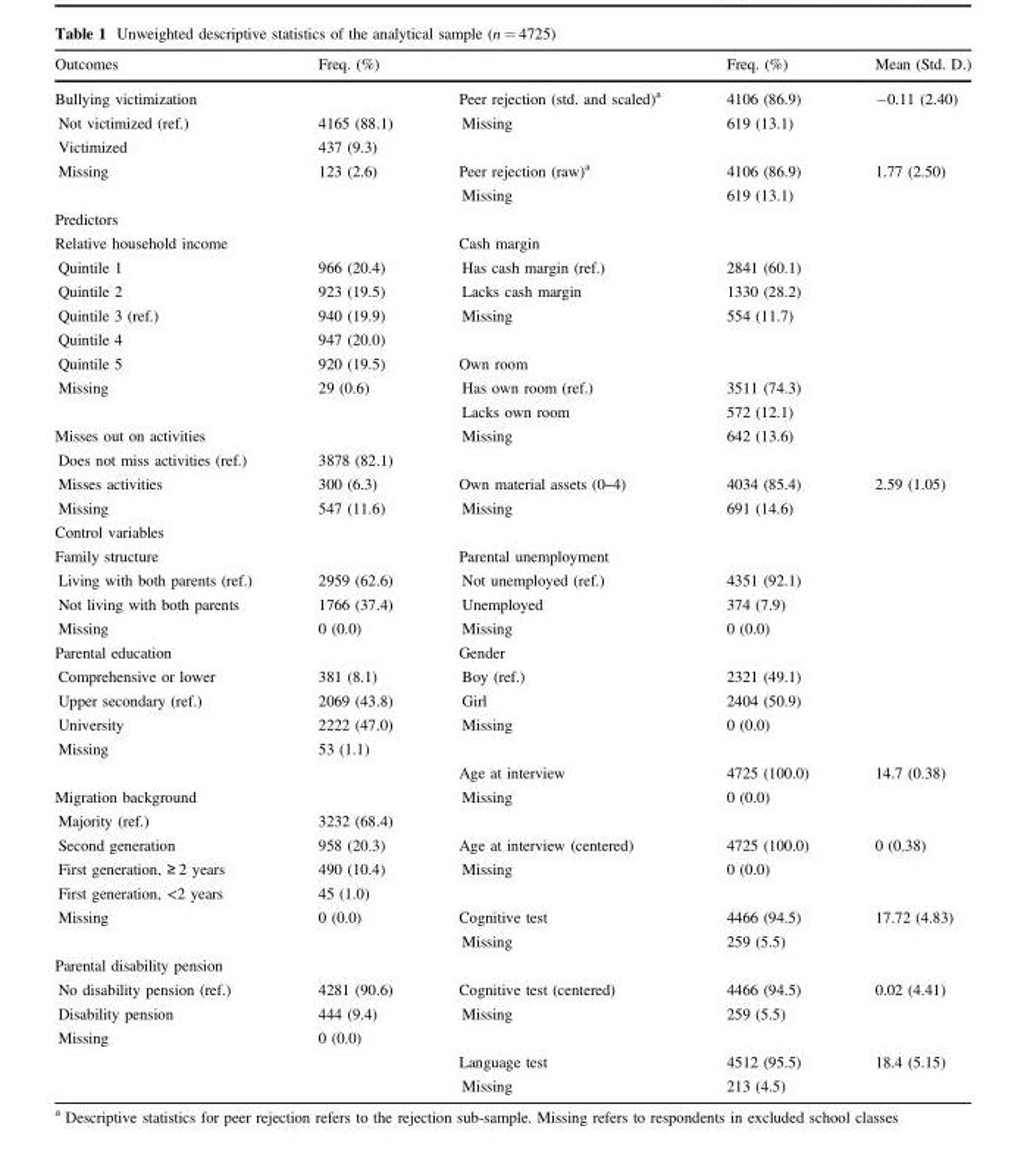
<table><thead><tr><td>Outcomes</td><td>Freq. (%)</td><td></td><td>Freq. (%)</td><td>Mean (Std. D.)</td></tr></thead><tbody><tr><td>Bullying victimization</td><td></td><td>Peer rejection (std. and scaled)<sup>a</sup></td><td>4106 (86.9)</td><td>−0.11 (2.40)</td></tr><tr><td>Not victimized (ref.)</td><td>4165 (88.1)</td><td>Missing</td><td>619 (13.1)</td><td></td></tr><tr><td>Victimized</td><td>437 (9.3)</td><td></td><td></td><td></td></tr><tr><td rowspan="2">Missing</td><td>123 (2.6)</td><td>Peer rejection (raw)<sup>a</sup></td><td>4106 (86.9)</td><td>1.77 (2.50)</td></tr><tr><td></td><td>Missing</td><td>619 (13.1)</td><td></td></tr><tr><td colspan="5">Predictors</td></tr><tr><td>Relative household income</td><td></td><td>Cash margin</td><td></td><td></td></tr><tr><td>Quintile 1</td><td>966 (20.4)</td><td>Has cash margin (ref.)</td><td>2841 (60.1)</td><td></td></tr><tr><td>Quintile 2</td><td>923 (19.5)</td><td>Lacks cash margin</td><td>1330 (28.2)</td><td></td></tr><tr><td>Quintile 3 (ref.)</td><td>940 (19.9)</td><td>Missing</td><td>554 (11.7)</td><td></td></tr><tr><td>Quintile 4</td><td>947 (20.0)</td><td></td><td></td><td></td></tr><tr><td>Quintile 5</td><td>920 (19.5)</td><td>Own room</td><td></td><td></td></tr><tr><td rowspan="2">Missing</td><td>29 (0.6)</td><td>Has own room (ref.)</td><td>3511 (74.3)</td><td></td></tr><tr><td></td><td>Lacks own room</td><td>572 (12.1)</td><td></td></tr><tr><td>Misses out on activities</td><td></td><td>Missing</td><td>642 (13.6)</td><td></td></tr><tr><td>Does not miss activities (ref.)</td><td>3878 (82.1)</td><td></td><td></td><td></td></tr><tr><td>Misses activities</td><td>300 (6.3)</td><td>Own material assets (0–4)</td><td>4034 (85.4)</td><td>2.59 (1.05)</td></tr><tr><td>Missing</td><td>547 (11.6)</td><td>Missing</td><td>691 (14.6)</td><td></td></tr><tr><td colspan="5">Control variables</td></tr><tr><td>Family structure</td><td></td><td>Parental unemployment</td><td></td><td></td></tr><tr><td>Living with both parents (ref.)</td><td>2959 (62.6)</td><td>Not unemployed (ref.)</td><td>4351 (92.1)</td><td></td></tr><tr><td>Not living with both parents</td><td>1766 (37.4)</td><td>Unemployed</td><td>374 (7.9)</td><td></td></tr><tr><td>Missing</td><td>0 (0.0)</td><td>Missing</td><td>0 (0.0)</td><td></td></tr><tr><td>Parental education</td><td></td><td>Gender</td><td></td><td></td></tr><tr><td>Comprehensive or lower</td><td>381 (8.1)</td><td>Boy (ref.)</td><td>2321 (49.1)</td><td></td></tr><tr><td>Upper secondary (ref.)</td><td>2069 (43.8)</td><td>Girl</td><td>2404 (50.9)</td><td></td></tr><tr><td>University</td><td>2222 (47.0)</td><td>Missing</td><td>0 (0.0)</td><td></td></tr><tr><td rowspan="2">Missing</td><td>53 (1.1)</td><td></td><td></td><td></td></tr><tr><td></td><td>Age at interview</td><td>4725 (100.0)</td><td>14.7 (0.38)</td></tr><tr><td>Migration background</td><td></td><td>Missing</td><td>0 (0.0)</td><td></td></tr><tr><td>Majority (ref.)</td><td>3232 (68.4)</td><td></td><td></td><td></td></tr><tr><td>Second generation</td><td>958 (20.3)</td><td>Age at interview (centered)</td><td>4725 (100.0)</td><td>0 (0.38)</td></tr><tr><td>First generation, ≥ 2 years</td><td>490 (10.4)</td><td>Missing</td><td>0 (0.0)</td><td></td></tr><tr><td>First generation, &lt;2 years</td><td>45 (1.0)</td><td></td><td></td><td></td></tr><tr><td rowspan="2">Missing</td><td>0 (0.0)</td><td>Cognitive test</td><td>4466 (94.5)</td><td>17.72 (4.83)</td></tr><tr><td></td><td>Missing</td><td>259 (5.5)</td><td></td></tr><tr><td colspan="5">Parental disability pension</td></tr><tr><td>No disability pension (ref.)</td><td>4281 (90.6)</td><td>Cognitive test (centered)</td><td>4466 (94.5)</td><td>0.02 (4.41)</td></tr><tr><td>Disability pension</td><td>444 (9.4)</td><td>Missing</td><td>259 (5.5)</td><td></td></tr><tr><td rowspan="3">Missing</td><td>0 (0.0)</td><td></td><td></td><td></td></tr><tr><td></td><td>Language test</td><td>4512 (95.5)</td><td>18.4 (5.15)</td></tr><tr><td></td><td>Missing</td><td>213 (4.5)</td><td></td></tr></tbody></table>